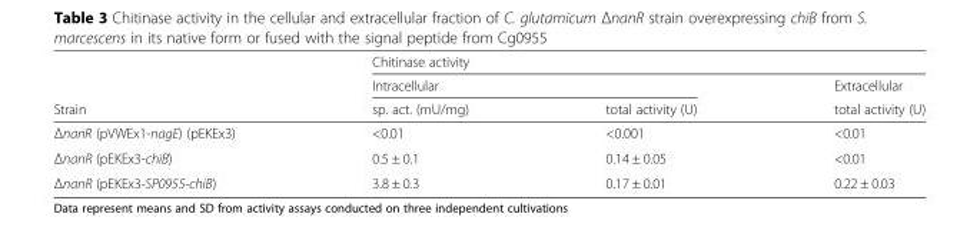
<table><thead><tr><td rowspan="3">Strain</td><td colspan="3">Chitinase activity</td></tr><tr><td colspan="2">Intracellular</td><td rowspan="2">Extracellular total activity (U)</td></tr><tr><td>sp. act. (mU/mg)</td><td>total activity (U)</td></tr></thead><tbody><tr><td>ΔnanR (pVWEx1-nagE) (pEKEx3)</td><td>&lt;0.01</td><td>&lt;0.001</td><td>&lt;0.01</td></tr><tr><td>ΔnanR (pEKEx3-chiB)</td><td>0.5 ± 0.1</td><td>0.14 ± 0.05</td><td>&lt;0.01</td></tr><tr><td>ΔnanR (pEKEx3-SP0955-chiB)</td><td>3.8 ± 0.3</td><td>0.17 ± 0.01</td><td>0.22 ± 0.03</td></tr></tbody></table>